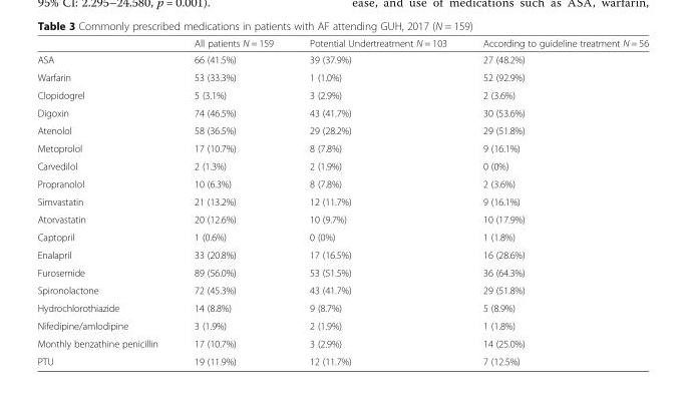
<table><thead><tr><td></td><td>All patients N = 159</td><td>Potential Undertreatment N = 103</td><td>According to guideline treatment N = 56</td></tr></thead><tbody><tr><td>ASA</td><td>66 (41.5%)</td><td>39 (37.9%)</td><td>27 (48.2%)</td></tr><tr><td>Warfarin</td><td>53 (33.3%)</td><td>1 (1.0%)</td><td>52 (92.9%)</td></tr><tr><td>Clopidogrel</td><td>5 (3.1%)</td><td>3 (2.9%)</td><td>2 (3.6%)</td></tr><tr><td>Digoxin</td><td>74 (46.5%)</td><td>43 (41.7%)</td><td>30 (53.6%)</td></tr><tr><td>Atenolol</td><td>58 (36.5%)</td><td>29 (28.2%)</td><td>29 (51.8%)</td></tr><tr><td>Metoprolol</td><td>17 (10.7%)</td><td>8 (7.8%)</td><td>9 (16.1%)</td></tr><tr><td>Carvedilol</td><td>2 (1.3%)</td><td>2 (1.9%)</td><td>0 (0%)</td></tr><tr><td>Propranolol</td><td>10 (6.3%)</td><td>8 (7.8%)</td><td>2 (3.6%)</td></tr><tr><td>Simvastatin</td><td>21 (13.2%)</td><td>12 (11.7%)</td><td>9 (16.1%)</td></tr><tr><td>Atorvastatin</td><td>20 (12.6%)</td><td>10 (9.7%)</td><td>10 (17.9%)</td></tr><tr><td>Captopril</td><td>1 (0.6%)</td><td>0 (0%)</td><td>1 (1.8%)</td></tr><tr><td>Enalapril</td><td>33 (20.8%)</td><td>17 (16.5%)</td><td>16 (28.6%)</td></tr><tr><td>Furosemide</td><td>89 (56.0%)</td><td>53 (51.5%)</td><td>36 (64.3%)</td></tr><tr><td>Spironolactone</td><td>72 (45.3%)</td><td>43 (41.7%)</td><td>29 (51.8%)</td></tr><tr><td>Hydrochlorothiazide</td><td>14 (8.8%)</td><td>9 (8.7%)</td><td>5 (8.9%)</td></tr><tr><td>Nifedipine/amlodipine</td><td>3 (1.9%)</td><td>2 (1.9%)</td><td>1 (1.8%)</td></tr><tr><td>Monthly benzathine penicillin</td><td>17 (10.7%)</td><td>3 (2.9%)</td><td>14 (25.0%)</td></tr><tr><td>PTU</td><td>19 (11.9%)</td><td>12 (11.7%)</td><td>7 (12.5%)</td></tr></tbody></table>